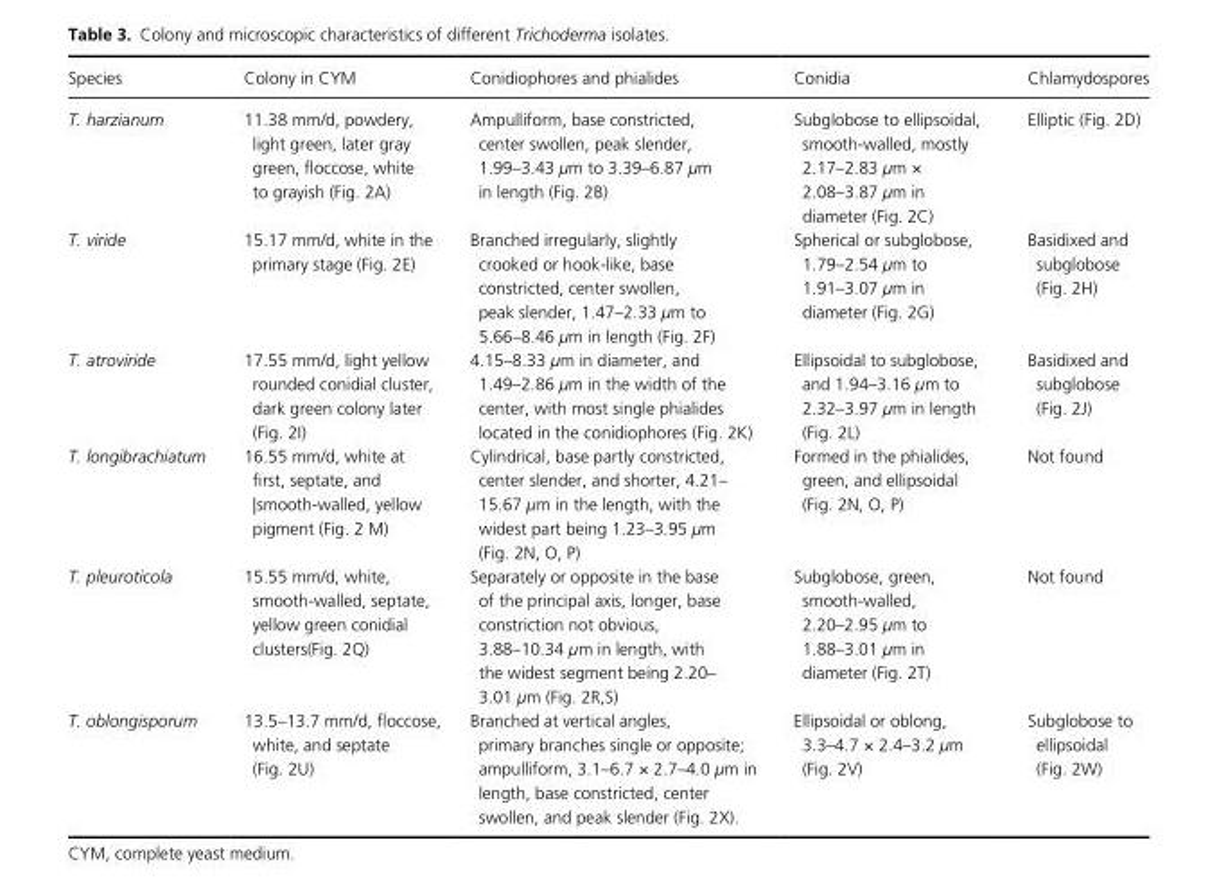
<table><thead><tr><td>Species</td><td>Colony in CYM</td><td>Conidiophores and phialides</td><td>Conidia</td><td>Chlamydospores</td></tr></thead><tbody><tr><td>T. harzianum</td><td>11.38 mm/d, powdery, light green, later gray green, floccose, white to grayish (Fig. 2A)</td><td>Ampulliform, base constricted, center swollen, peak slender, 1.99–3.43 μm to 3.39–6.87 μm in length (Fig. 2B)</td><td>Subglobose to ellipsoidal, smooth- walled, mostly 2.17–2.83 μm × 2.08–3.87 μm in diameter (Fig. 2C)</td><td>Elliptic (Fig. 2D)</td></tr><tr><td>T. viride</td><td>15.17 mm/d, white in the primary stage (Fig. 2E)</td><td>Branched irregularly, slightly crooked or hook- like, base constricted, center swollen, peak slender, 1.47–2.33 μm to 5.66–8.46 μm in length (Fig. 2F)</td><td>Spherical or subglobose, 1.79–2.54 μm to 1.91–3.07 μm in diameter (Fig. 2G)</td><td>Basidixed and subglobose (Fig. 2H)</td></tr><tr><td>T. atroviride</td><td>17.55 mm/d, light yellow rounded conidial cluster, dark green colony later (Fig. 2I)</td><td>4.15–8.33 μm in diameter, and 1.49–2.86 μm in the width of the center, with most single phialides located in the conidiophores (Fig. 2K)</td><td>Ellipsoidal to subglobose, and 1.94–3.16 μm to 2.32–3.97 μm in length (Fig. 2L)</td><td>Basidixed and subglobose (Fig. 2J)</td></tr><tr><td>T. longibrachiatum</td><td>16.55 mm/d, white at first, septate, and |smooth- walled, yellow pigment (Fig. 2 M)</td><td>Cylindrical, base partly constricted, center slender, and shorter, 4.21– 15.67 μm in the length, with the widest part being 1.23–3.95 μm (Fig. 2N, O, P)</td><td>Formed in the phialides, green, and ellipsoidal (Fig. 2N, O, P)</td><td>Not found</td></tr><tr><td>T. pleuroticola</td><td>15.55 mm/d, white, smooth- walled, septate, yellow green conidial clusters(Fig. 2Q)</td><td>Separately or opposite in the base of the principal axis, longer, base constriction not obvious, 3.88–10.34 μm in length, with the widest segment being 2.20– 3.01 μm (Fig. 2R,S)</td><td>Subglobose, green, smooth- walled, 2.20–2.95 μm to 1.88–3.01 μm in diameter (Fig. 2T)</td><td>Not found</td></tr><tr><td>T. oblongisporum</td><td>13.5–13.7 mm/d, floccose, white, and septate (Fig. 2U)</td><td>Branched at vertical angles, primary branches single or opposite; ampulliform, 3.1–6.7 × 2.7–4.0 μm in length, base constricted, center swollen, and peak slender (Fig. 2X).</td><td>Ellipsoidal or oblong, 3.3–4.7 × 2.4–3.2 μm (Fig. 2V)</td><td>Subglobose to ellipsoidal (Fig. 2W)</td></tr></tbody></table>